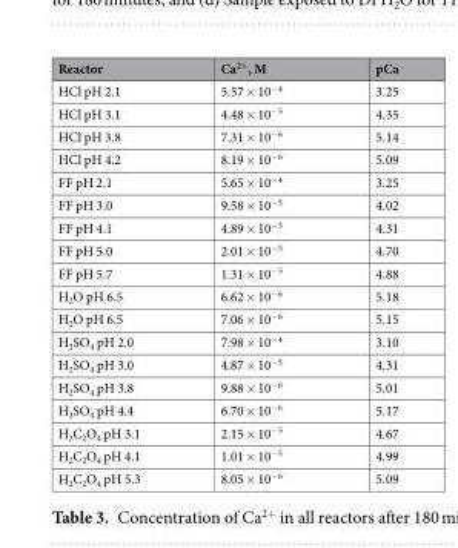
<table><thead><tr><td>Reactor</td><td>Ca<sup>2+</sup>, M</td><td>pCa</td></tr></thead><tbody><tr><td>HCl pH 2.1</td><td>5.57 × 10<sup>−4</sup></td><td>3.25</td></tr><tr><td>HCl pH 3.1</td><td>4.48 × 10<sup>−5</sup></td><td>4.35</td></tr><tr><td>HCl pH 3.8</td><td>7.31 × 10<sup>−6</sup></td><td>5.14</td></tr><tr><td>HCl pH 4.2</td><td>8.19 × 10<sup>−6</sup></td><td>5.09</td></tr><tr><td>FF pH 2.1</td><td>5.65 × 10<sup>−4</sup></td><td>3.25</td></tr><tr><td>FF pH 3.0</td><td>9.58 × 10<sup>−5</sup></td><td>4.02</td></tr><tr><td>FF pH 4.1</td><td>4.89 × 10<sup>−5</sup></td><td>4.31</td></tr><tr><td>FF pH 5.0</td><td>2.01 × 10<sup>−5</sup></td><td>4.70</td></tr><tr><td>FF pH 5.7</td><td>1.31 × 10<sup>−5</sup></td><td>4.88</td></tr><tr><td>H<sub>2</sub>O pH 6.5</td><td>6.62 × 10<sup>−6</sup></td><td>5.18</td></tr><tr><td>H<sub>2</sub>O pH 6.5</td><td>7.06 × 10<sup>−6</sup></td><td>5.15</td></tr><tr><td>H<sub>2</sub>SO<sub>4</sub> pH 2.0</td><td>7.98 × 10<sup>−4</sup></td><td>3.10</td></tr><tr><td>H<sub>2</sub>SO<sub>4</sub> pH 3.0</td><td>4.87 × 10<sup>−5</sup></td><td>4.31</td></tr><tr><td>H<sub>2</sub>SO<sub>4</sub> pH 3.8</td><td>9.88 × 10<sup>−6</sup></td><td>5.01</td></tr><tr><td>H<sub>2</sub>SO<sub>4</sub> pH 4.4</td><td>6.70 × 10<sup>−6</sup></td><td>5.17</td></tr><tr><td>H<sub>2</sub>C<sub>2</sub>O<sub>4</sub> pH 3.1</td><td>2.15 × 10<sup>−5</sup></td><td>4.67</td></tr><tr><td>H<sub>2</sub>C<sub>2</sub>O<sub>4</sub> pH 4.1</td><td>1.01 × 10<sup>−5</sup></td><td>4.99</td></tr><tr><td>H<sub>2</sub>C<sub>2</sub>O<sub>4</sub> pH 5.3</td><td>8.05 × 10<sup>−6</sup></td><td>5.09</td></tr></tbody></table>